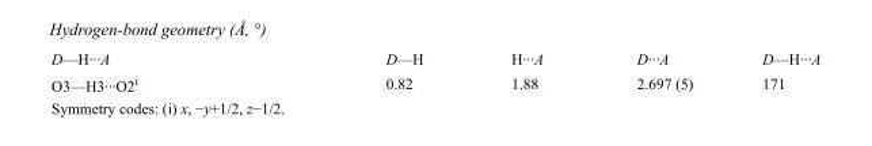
<table><tbody><tr><td>D—H···A</td><td>D—H</td><td>H···A</td><td>D···A</td><td>D—H···A</td></tr><tr><td>O3—H3···O2<sup>i</sup></td><td>0.82</td><td>1.88</td><td>2.697 (5)</td><td>171</td></tr></tbody></table>